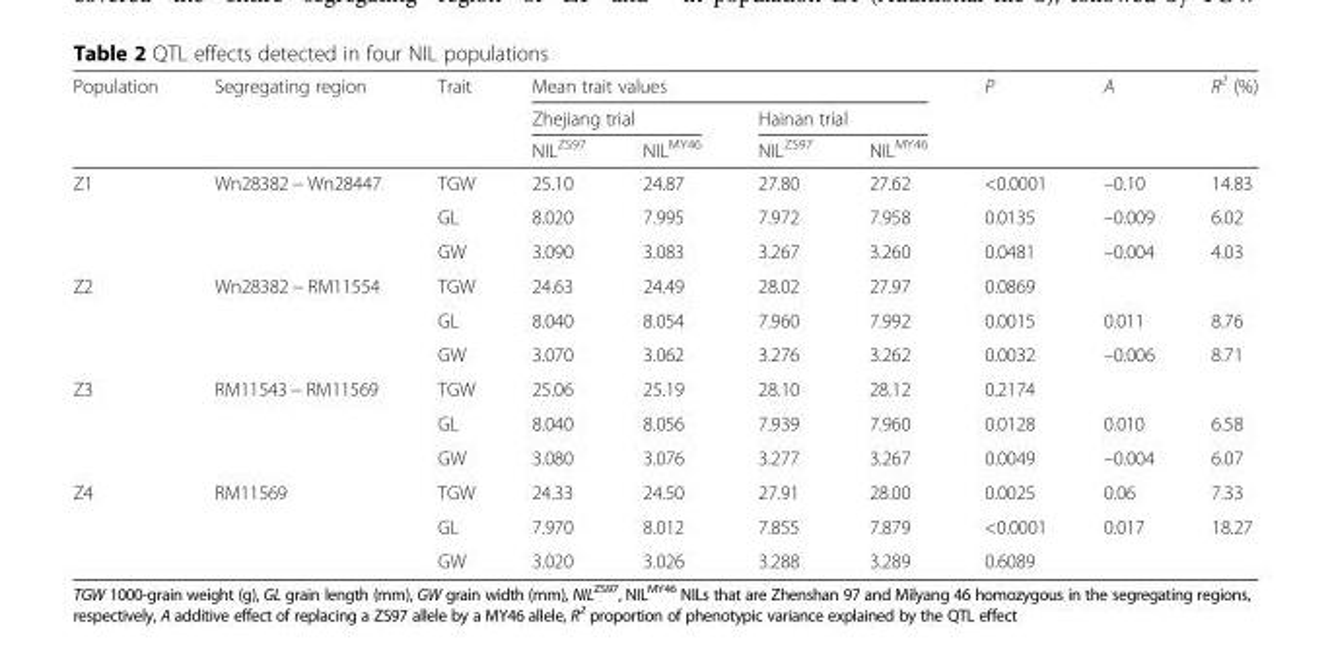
<table><thead><tr><td rowspan="3">Population</td><td rowspan="3">Segregating region</td><td rowspan="3">Trait</td><td colspan="4">Mean trait values</td><td rowspan="3">P</td><td rowspan="3">A</td><td rowspan="3">R<sup>2</sup> (%)</td></tr><tr><td colspan="2">Zhejiang trial</td><td colspan="2">Hainan trial</td></tr><tr><td>NIL<sup>ZS97</sup></td><td>NIL<sup>MY46</sup></td><td>NIL<sup>ZS97</sup></td><td>NIL<sup>MY46</sup></td></tr></thead><tbody><tr><td rowspan="3">Z1</td><td>Wn28382 − Wn28447</td><td>TGW</td><td>25.10</td><td>24.87</td><td>27.80</td><td>27.62</td><td>&lt;0.0001</td><td>–0.10</td><td>14.83</td></tr><tr><td></td><td>GL</td><td>8.020</td><td>7.995</td><td>7.972</td><td>7.958</td><td>0.0135</td><td>–0.009</td><td>6.02</td></tr><tr><td></td><td>GW</td><td>3.090</td><td>3.083</td><td>3.267</td><td>3.260</td><td>0.0481</td><td>–0.004</td><td>4.03</td></tr><tr><td rowspan="3">Z2</td><td>Wn28382 − RM11554</td><td>TGW</td><td>24.63</td><td>24.49</td><td>28.02</td><td>27.97</td><td>0.0869</td><td></td><td></td></tr><tr><td></td><td>GL</td><td>8.040</td><td>8.054</td><td>7.960</td><td>7.992</td><td>0.0015</td><td>0.011</td><td>8.76</td></tr><tr><td></td><td>GW</td><td>3.070</td><td>3.062</td><td>3.276</td><td>3.262</td><td>0.0032</td><td>–0.006</td><td>8.71</td></tr><tr><td rowspan="3">Z3</td><td>RM11543 − RM11569</td><td>TGW</td><td>25.06</td><td>25.19</td><td>28.10</td><td>28.12</td><td>0.2174</td><td></td><td></td></tr><tr><td></td><td>GL</td><td>8.040</td><td>8.056</td><td>7.939</td><td>7.960</td><td>0.0128</td><td>0.010</td><td>6.58</td></tr><tr><td></td><td>GW</td><td>3.080</td><td>3.076</td><td>3.277</td><td>3.267</td><td>0.0049</td><td>–0.004</td><td>6.07</td></tr><tr><td rowspan="3">Z4</td><td>RM11569</td><td>TGW</td><td>24.33</td><td>24.50</td><td>27.91</td><td>28.00</td><td>0.0025</td><td>0.06</td><td>7.33</td></tr><tr><td></td><td>GL</td><td>7.970</td><td>8.012</td><td>7.855</td><td>7.879</td><td>&lt;0.0001</td><td>0.017</td><td>18.27</td></tr><tr><td></td><td>GW</td><td>3.020</td><td>3.026</td><td>3.288</td><td>3.289</td><td>0.6089</td><td></td><td></td></tr></tbody></table>